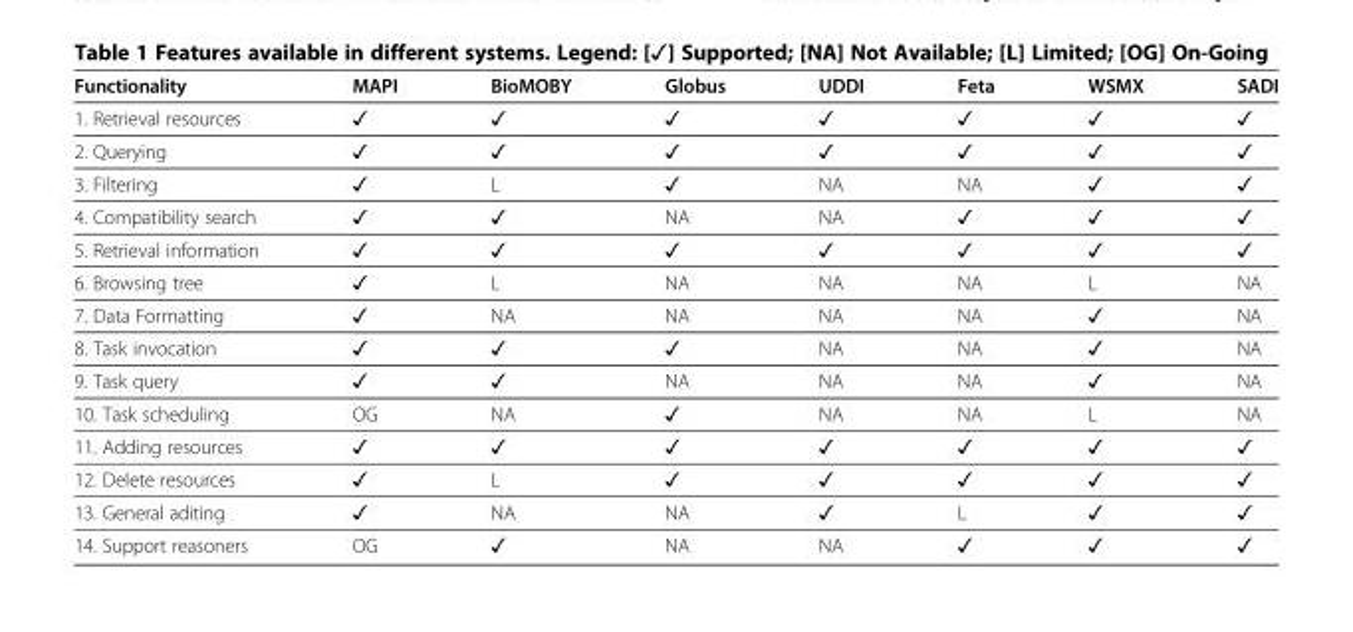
<table><thead><tr><td>Functionality</td><td>MAPI</td><td>BioMOBY</td><td>Globus</td><td>UDDI</td><td>Feta</td><td>WSMX</td><td>SADI</td></tr></thead><tbody><tr><td>1. Retrieval resources</td><td>✓</td><td>✓</td><td>✓</td><td>✓</td><td>✓</td><td>✓</td><td>✓</td></tr><tr><td>2. Querying</td><td>✓</td><td>✓</td><td>✓</td><td>✓</td><td>✓</td><td>✓</td><td>✓</td></tr><tr><td>3. Filtering</td><td>✓</td><td>L</td><td>✓</td><td>NA</td><td>NA</td><td>✓</td><td>✓</td></tr><tr><td>4. Compatibility search</td><td>✓</td><td>✓</td><td>NA</td><td>NA</td><td>✓</td><td>✓</td><td>✓</td></tr><tr><td>5. Retrieval information</td><td>✓</td><td>✓</td><td>✓</td><td>✓</td><td>✓</td><td>✓</td><td>✓</td></tr><tr><td>6. Browsing tree</td><td>✓</td><td>L</td><td>NA</td><td>NA</td><td>NA</td><td>L</td><td>NA</td></tr><tr><td>7. Data Formatting</td><td>✓</td><td>NA</td><td>NA</td><td>NA</td><td>NA</td><td>✓</td><td>NA</td></tr><tr><td>8. Task invocation</td><td>✓</td><td>✓</td><td>✓</td><td>NA</td><td>NA</td><td>✓</td><td>NA</td></tr><tr><td>9. Task query</td><td>✓</td><td>✓</td><td>NA</td><td>NA</td><td>NA</td><td>✓</td><td>NA</td></tr><tr><td>10. Task scheduling</td><td>OG</td><td>NA</td><td>✓</td><td>NA</td><td>NA</td><td>L</td><td>NA</td></tr><tr><td>11. Adding resources</td><td>✓</td><td>✓</td><td>✓</td><td>✓</td><td>✓</td><td>✓</td><td>✓</td></tr><tr><td>12. Delete resources</td><td>✓</td><td>L</td><td>✓</td><td>✓</td><td>✓</td><td>✓</td><td>✓</td></tr><tr><td>13. General aditing</td><td>✓</td><td>NA</td><td>NA</td><td>✓</td><td>L</td><td>✓</td><td>✓</td></tr><tr><td>14. Support reasoners</td><td>OG</td><td>✓</td><td>NA</td><td>NA</td><td>✓</td><td>✓</td><td>✓</td></tr></tbody></table>